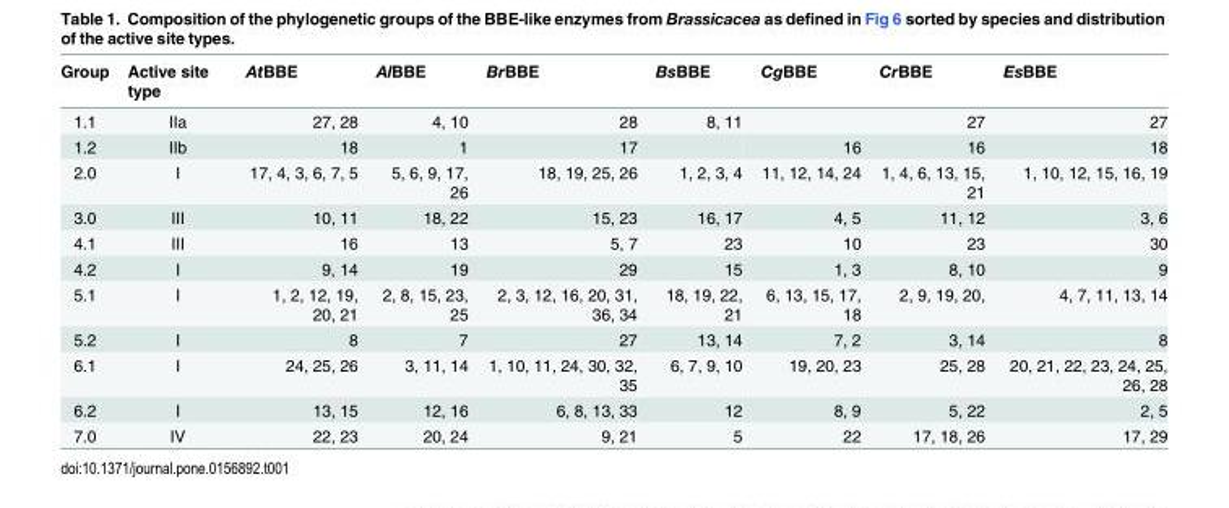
<table><thead><tr><td>Group</td><td>Active site type</td><td>AtBBE</td><td>AlBBE</td><td>BrBBE</td><td>BsBBE</td><td>CgBBE</td><td>CrBBE</td><td>EsBBE</td></tr></thead><tbody><tr><td>1.1</td><td>IIa</td><td>27, 28</td><td>4, 10</td><td>28</td><td>8, 11</td><td></td><td>27</td><td>27</td></tr><tr><td>1.2</td><td>IIb</td><td>18</td><td>1</td><td>17</td><td></td><td>16</td><td>16</td><td>18</td></tr><tr><td>2.0</td><td>I</td><td>17, 4, 3, 6, 7, 5</td><td>5, 6, 9, 17, 26</td><td>18, 19, 25, 26</td><td>1, 2, 3, 4</td><td>11, 12, 14, 24</td><td>1, 4, 6, 13, 15, 21</td><td>1, 10, 12, 15, 16, 19</td></tr><tr><td>3.0</td><td>III</td><td>10, 11</td><td>18, 22</td><td>15, 23</td><td>16, 17</td><td>4, 5</td><td>11, 12</td><td>3, 6</td></tr><tr><td>4.1</td><td>III</td><td>16</td><td>13</td><td>5, 7</td><td>23</td><td>10</td><td>23</td><td>30</td></tr><tr><td>4.2</td><td>I</td><td>9, 14</td><td>19</td><td>29</td><td>15</td><td>1, 3</td><td>8, 10</td><td>9</td></tr><tr><td>5.1</td><td>I</td><td>1, 2, 12, 19, 20, 21</td><td>2, 8, 15, 23, 25</td><td>2, 3, 12, 16, 20, 31, 36, 34</td><td>18, 19, 22, 21</td><td>6, 13, 15, 17, 18</td><td>2, 9, 19, 20,</td><td>4, 7, 11, 13, 14</td></tr><tr><td>5.2</td><td>I</td><td>8</td><td>7</td><td>27</td><td>13, 14</td><td>7, 2</td><td>3, 14</td><td>8</td></tr><tr><td>6.1</td><td>I</td><td>24, 25, 26</td><td>3, 11, 14</td><td>1, 10, 11, 24, 30, 32, 35</td><td>6, 7, 9, 10</td><td>19, 20, 23</td><td>25, 28</td><td>20, 21, 22, 23, 24, 25, 26, 28</td></tr><tr><td>6.2</td><td>I</td><td>13, 15</td><td>12, 16</td><td>6, 8, 13, 33</td><td>12</td><td>8, 9</td><td>5, 22</td><td>2, 5</td></tr><tr><td>7.0</td><td>IV</td><td>22, 23</td><td>20, 24</td><td>9, 21</td><td>5</td><td>22</td><td>17, 18, 26</td><td>17, 29</td></tr></tbody></table>